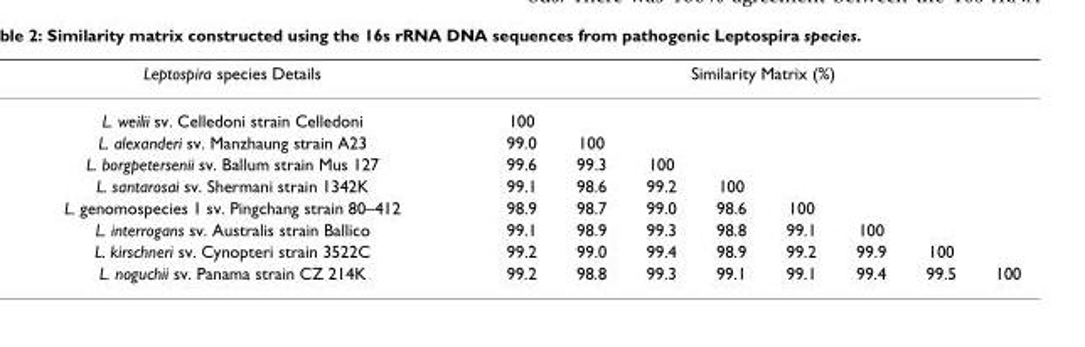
<table><thead><tr><td rowspan="2">Leptospira species Details L. weilii sv. Celledoni strain Celledoni</td><td colspan="8">Similarity Matrix (%)</td></tr><tr><td>100</td><td></td><td></td><td></td><td></td><td></td><td></td><td></td></tr></thead><tbody><tr><td>L. alexanderi sv. Manzhaung strain A23</td><td>99.0</td><td>100</td><td></td><td></td><td></td><td></td><td></td><td></td></tr><tr><td>L. borgpetersenii sv. Ballum strain Mus 127</td><td>99.6</td><td>99.3</td><td>100</td><td></td><td></td><td></td><td></td><td></td></tr><tr><td>L. santarosai sv. Shermani strain 1342K</td><td>99.1</td><td>98.6</td><td>99.2</td><td>100</td><td></td><td></td><td></td><td></td></tr><tr><td>L. genomospecies 1 sv. Pingchang strain 80–412</td><td>98.9</td><td>98.7</td><td>99.0</td><td>98.6</td><td>100</td><td></td><td></td><td></td></tr><tr><td>L. interrogans sv. Australis strain Ballico</td><td>99.1</td><td>98.9</td><td>99.3</td><td>98.8</td><td>99.1</td><td>100</td><td></td><td></td></tr><tr><td>L. kirschneri sv. Cynopteri strain 3522C</td><td>99.2</td><td>99.0</td><td>99.4</td><td>98.9</td><td>99.2</td><td>99.9</td><td>100</td><td></td></tr><tr><td>L. noguchii sv. Panama strain CZ 214K</td><td>99.2</td><td>98.8</td><td>99.3</td><td>99.1</td><td>99.1</td><td>99.4</td><td>99.5</td><td>100</td></tr></tbody></table>